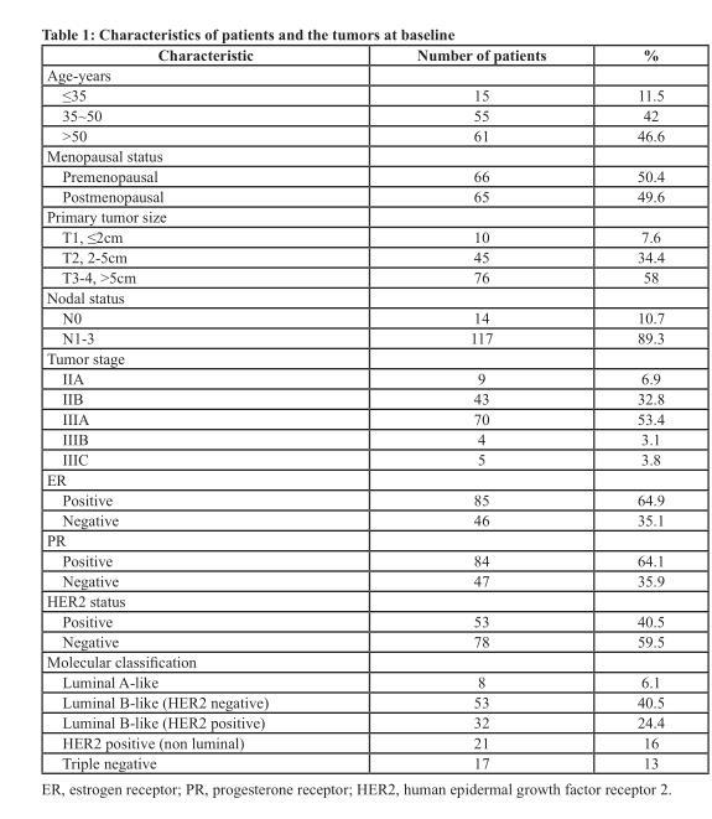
<table><thead><tr><td>Characteristic</td><td>Number of patients</td><td>%</td></tr></thead><tbody><tr><td colspan="3">Age-years</td></tr><tr><td>≤35</td><td>15</td><td>11.5</td></tr><tr><td>35~50</td><td>55</td><td>42</td></tr><tr><td>&gt;50</td><td>61</td><td>46.6</td></tr><tr><td colspan="3">Menopausal status</td></tr><tr><td>Premenopausal</td><td>66</td><td>50.4</td></tr><tr><td>Postmenopausal</td><td>65</td><td>49.6</td></tr><tr><td colspan="3">Primary tumor size</td></tr><tr><td>T1, ≤2cm</td><td>10</td><td>7.6</td></tr><tr><td>T2, 2-5cm</td><td>45</td><td>34.4</td></tr><tr><td>T3-4, &gt;5cm</td><td>76</td><td>58</td></tr><tr><td colspan="3">Nodal status</td></tr><tr><td>N0</td><td>14</td><td>10.7</td></tr><tr><td>N1-3</td><td>117</td><td>89.3</td></tr><tr><td colspan="3">Tumor stage</td></tr><tr><td>IIA</td><td>9</td><td>6.9</td></tr><tr><td>IIB</td><td>43</td><td>32.8</td></tr><tr><td>IIIA</td><td>70</td><td>53.4</td></tr><tr><td>IIIB</td><td>4</td><td>3.1</td></tr><tr><td>IIIC</td><td>5</td><td>3.8</td></tr><tr><td colspan="3">ER</td></tr><tr><td>Positive</td><td>85</td><td>64.9</td></tr><tr><td>Negative</td><td>46</td><td>35.1</td></tr><tr><td colspan="3">PR</td></tr><tr><td>Positive</td><td>84</td><td>64.1</td></tr><tr><td>Negative</td><td>47</td><td>35.9</td></tr><tr><td colspan="3">HER2 status</td></tr><tr><td>Positive</td><td>53</td><td>40.5</td></tr><tr><td>Negative</td><td>78</td><td>59.5</td></tr><tr><td colspan="3">Molecular classification</td></tr><tr><td>Luminal A-like</td><td>8</td><td>6.1</td></tr><tr><td>Luminal B-like (HER2 negative)</td><td>53</td><td>40.5</td></tr><tr><td>Luminal B-like (HER2 positive)</td><td>32</td><td>24.4</td></tr><tr><td>HER2 positive (non luminal)</td><td>21</td><td>16</td></tr><tr><td>Triple negative</td><td>17</td><td>13</td></tr></tbody></table>